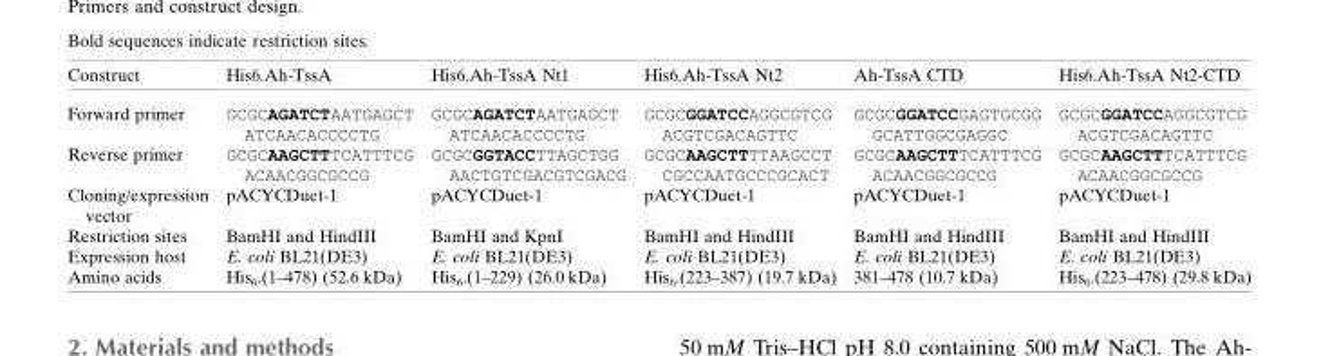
<table><thead><tr><td>Construct</td><td>His6.Ah-TssA</td><td>His6.Ah-TssA Nt1</td><td>His6.Ah-TssA Nt2</td><td>Ah-TssA CTD</td><td>His6.Ah-TssA Nt2-CTD</td></tr></thead><tbody><tr><td>Forward primer</td><td>GCGCAGATCTAATGAGCT ATCAACACCCCTG</td><td>GCGCAGATCTAATGAGCT ATCAACACCCCTG</td><td>GCGCGGATCCAGGCGTCG ACGTCGACAGTTC</td><td>GCGCGGATCCGAGTGCGG GCATTGGCGAGGC</td><td>GCGCGGATCCAGGCGTCG ACGTCGACAGTTC</td></tr><tr><td>Reverse primer</td><td>GCGCAAGCTTTCATTTCG ACAACGGCGCCG</td><td>GCGCGGTACCTTAGCTGG AACTGTCGACGTCGACG</td><td>GCGCAAGCTTTTAAGCCT CGCCAATGCCCGCACT</td><td>GCGCAAGCTTTCATTTCG ACAACGGCGCCG</td><td>GCGCAAGCTTTCATTTCG ACAACGGCGCCG</td></tr><tr><td>Cloning/expression vector</td><td>pACYCDuet-1</td><td>pACYCDuet-1</td><td>pACYCDuet-1</td><td>pACYCDuet-1</td><td>pACYCDuet-1</td></tr><tr><td>Restriction sites</td><td>BamHI and HindIII</td><td>BamHI and KpnI</td><td>BamHI and HindIII</td><td>BamHI and HindIII</td><td>BamHI and HindIII</td></tr><tr><td>Expression host</td><td>E. coli BL21(DE3)</td><td>E. coli BL21(DE3)</td><td>E. coli BL21(DE3)</td><td>E. coli BL21(DE3)</td><td>E. coli BL21(DE3)</td></tr><tr><td>Amino acids</td><td>His<sub>6</sub>.(1–478) (52.6 kDa)</td><td>His<sub>6</sub>.(1–229) (26.0 kDa)</td><td>His<sub>6</sub>.(223–387) (19.7 kDa)</td><td>381–478 (10.7 kDa)</td><td>His<sub>6</sub>.(223–478) (29.8 kDa)</td></tr></tbody></table>